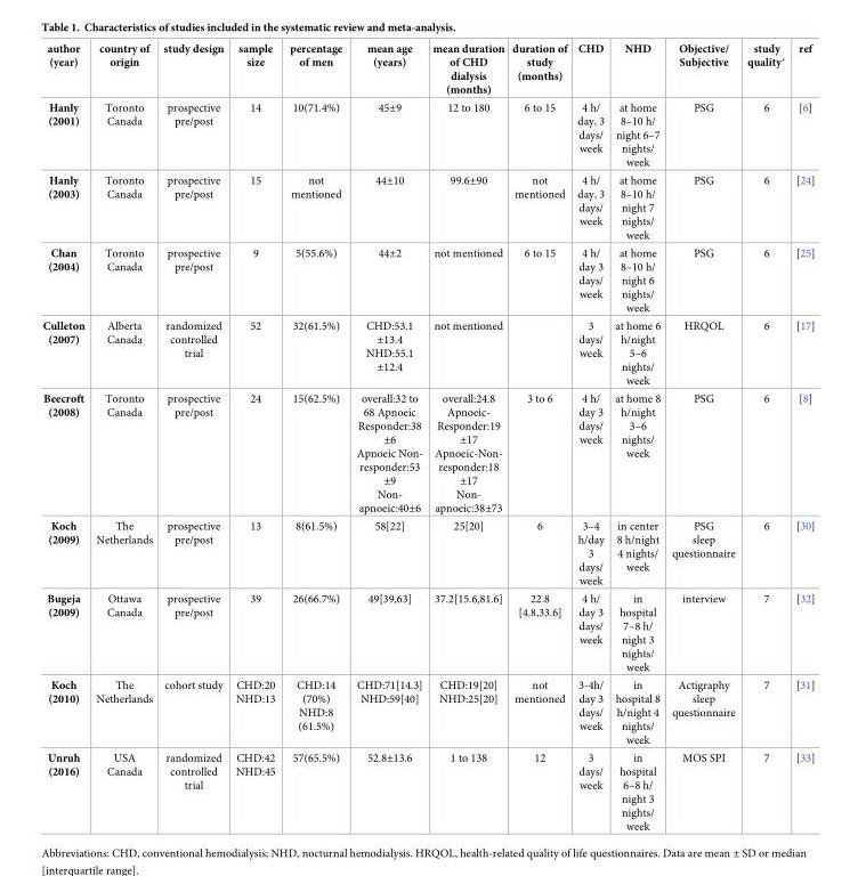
<table><thead><tr><td>author (year)</td><td>country of origin</td><td>study design</td><td>sample size</td><td>percentage of men</td><td>mean age (years)</td><td>mean duration of CHD dialysis (months)</td><td>duration of study (months)</td><td>CHD</td><td>NHD</td><td>Objective/ Subjective</td><td>study quality*</td><td>ref</td></tr></thead><tbody><tr><td>Hanly (2001)</td><td>Toronto Canada</td><td>prospective pre/post</td><td>14</td><td>10(71.4%)</td><td>45±9</td><td>12 to 180</td><td>6 to 15</td><td>4 h/ day, 3 days/ week</td><td>at home 8–10 h/ night 6–7 nights/ week</td><td>PSG</td><td>6</td><td>[6]</td></tr><tr><td>Hanly (2003)</td><td>Toronto Canada</td><td>prospective pre/post</td><td>15</td><td>not mentioned</td><td>44±10</td><td>99.6±90</td><td>not mentioned</td><td>4 h/ day, 3 days/ week</td><td>at home 8–10 h/ night 7 nights/ week</td><td>PSG</td><td>6</td><td>[24]</td></tr><tr><td>Chan (2004)</td><td>Toronto Canada</td><td>prospective pre/post</td><td>9</td><td>5(55.6%)</td><td>44±2</td><td>not mentioned</td><td>6 to 15</td><td>4 h/ day 3 days/ week</td><td>at home 8–10 h/ night 6 nights/ week</td><td>PSG</td><td>6</td><td>[25]</td></tr><tr><td>Culleton (2007)</td><td>Alberta Canada</td><td>randomized controlled trial</td><td>52</td><td>32(61.5%)</td><td>CHD:53.1 ±13.4 NHD:55.1 ±12.4</td><td>not mentioned</td><td></td><td>3 days/ week</td><td>at home 6 h/night 5–6 nights/ week</td><td>HRQOL</td><td>6</td><td>[17]</td></tr><tr><td>Beecroft (2008)</td><td>Toronto Canada</td><td>prospective pre/post</td><td>24</td><td>15(62.5%)</td><td>overall:32 to 68 Apnoeic Responder:38 ±6 Apnoeic Non- responder:53 ±9 Non- apnoeic:40±6</td><td>overall:24.8 Apnoeic- Responder:19 ±17 Apnoeic-Non- responder:18 ±17 Non- apnoeic:38±73</td><td>3 to 6</td><td>4 h/ day 3 days/ week</td><td>at home 8 h/night 3–6 nights/ week</td><td>PSG</td><td>6</td><td>[8]</td></tr><tr><td>Koch (2009)</td><td>The Netherlands</td><td>prospective pre/post</td><td>13</td><td>8(61.5%)</td><td>58[22]</td><td>25[20]</td><td>6</td><td>3–4 h/day 3 days/ week</td><td>in center 8 h/night 4 nights/ week</td><td>PSG sleep questionnaire</td><td>6</td><td>[30]</td></tr><tr><td>Bugeja (2009)</td><td>Ottawa Canada</td><td>prospective pre/post</td><td>39</td><td>26(66.7%)</td><td>49[39,63]</td><td>37.2[15.6,81.6]</td><td>22.8 [4.8,33.6]</td><td>4 h/ day 3 days/ week</td><td>in hospital 7–8 h/ night 3 nights/ week</td><td>interview</td><td>7</td><td>[32]</td></tr><tr><td>Koch (2010)</td><td>The Netherlands</td><td>cohort study</td><td>CHD:20 NHD:13</td><td>CHD:14 (70%) NHD:8 (61.5%)</td><td>CHD:71[14.3] NHD:59[40]</td><td>CHD:19[20] NHD:25[20]</td><td>not mentioned</td><td>3-4h/ day 3 days/ week</td><td>in hospital 8 h/night 4 nights/ week</td><td>Actigraphy sleep questionnaire</td><td>7</td><td>[31]</td></tr><tr><td>Unruh (2016)</td><td>USA Canada</td><td>randomized controlled trial</td><td>CHD:42 NHD:45</td><td>57(65.5%)</td><td>52.8±13.6</td><td>1 to 138</td><td>12</td><td>3 days/ week</td><td>in hospital 6–8 h/ night 3 nights/ week</td><td>MOS SPI</td><td>7</td><td>[33]</td></tr></tbody></table>